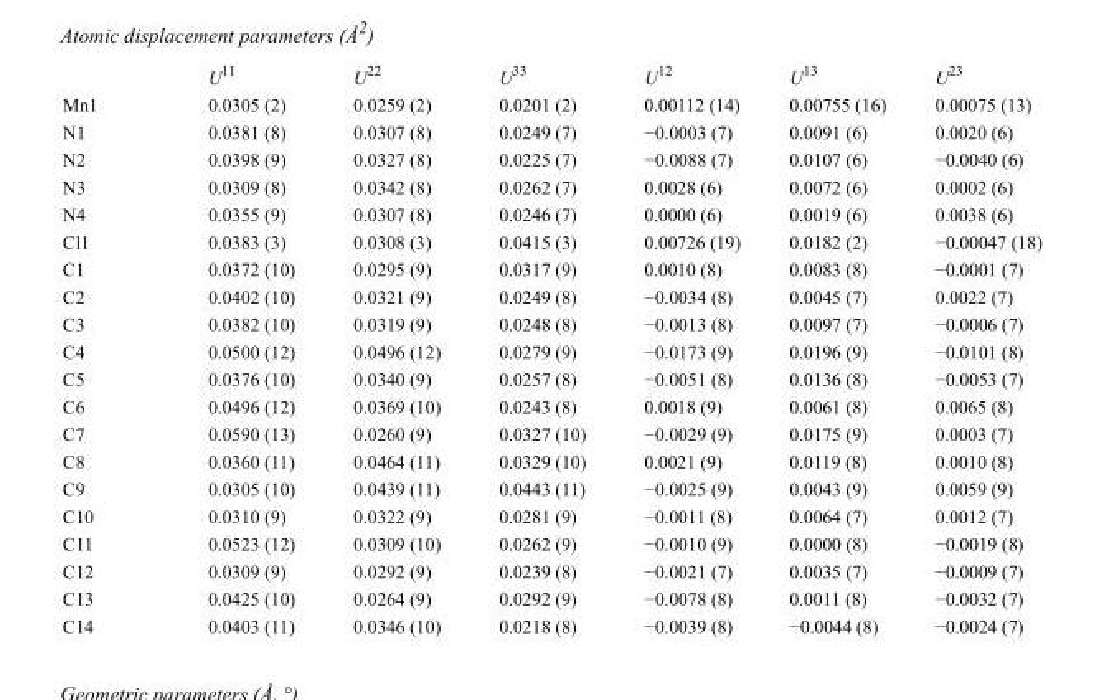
<table><thead><tr><td></td><td>U<sup>11</sup></td><td>U<sup>22</sup></td><td>U<sup>33</sup></td><td>U<sup>12</sup></td><td>U<sup>13</sup></td><td>U<sup>23</sup></td></tr></thead><tbody><tr><td>Mn1</td><td>0.0305 (2)</td><td>0.0259 (2)</td><td>0.0201 (2)</td><td>0.00112 (14)</td><td>0.00755 (16)</td><td>0.00075 (13)</td></tr><tr><td>N1</td><td>0.0381 (8)</td><td>0.0307 (8)</td><td>0.0249 (7)</td><td>−0.0003 (7)</td><td>0.0091 (6)</td><td>0.0020 (6)</td></tr><tr><td>N2</td><td>0.0398 (9)</td><td>0.0327 (8)</td><td>0.0225 (7)</td><td>−0.0088 (7)</td><td>0.0107 (6)</td><td>−0.0040 (6)</td></tr><tr><td>N3</td><td>0.0309 (8)</td><td>0.0342 (8)</td><td>0.0262 (7)</td><td>0.0028 (6)</td><td>0.0072 (6)</td><td>0.0002 (6)</td></tr><tr><td>N4</td><td>0.0355 (9)</td><td>0.0307 (8)</td><td>0.0246 (7)</td><td>0.0000 (6)</td><td>0.0019 (6)</td><td>0.0038 (6)</td></tr><tr><td>Cl1</td><td>0.0383 (3)</td><td>0.0308 (3)</td><td>0.0415 (3)</td><td>0.00726 (19)</td><td>0.0182 (2)</td><td>−0.00047 (18)</td></tr><tr><td>C1</td><td>0.0372 (10)</td><td>0.0295 (9)</td><td>0.0317 (9)</td><td>0.0010 (8)</td><td>0.0083 (8)</td><td>−0.0001 (7)</td></tr><tr><td>C2</td><td>0.0402 (10)</td><td>0.0321 (9)</td><td>0.0249 (8)</td><td>−0.0034 (8)</td><td>0.0045 (7)</td><td>0.0022 (7)</td></tr><tr><td>C3</td><td>0.0382 (10)</td><td>0.0319 (9)</td><td>0.0248 (8)</td><td>−0.0013 (8)</td><td>0.0097 (7)</td><td>−0.0006 (7)</td></tr><tr><td>C4</td><td>0.0500 (12)</td><td>0.0496 (12)</td><td>0.0279 (9)</td><td>−0.0173 (9)</td><td>0.0196 (9)</td><td>−0.0101 (8)</td></tr><tr><td>C5</td><td>0.0376 (10)</td><td>0.0340 (9)</td><td>0.0257 (8)</td><td>−0.0051 (8)</td><td>0.0136 (8)</td><td>−0.0053 (7)</td></tr><tr><td>C6</td><td>0.0496 (12)</td><td>0.0369 (10)</td><td>0.0243 (8)</td><td>0.0018 (9)</td><td>0.0061 (8)</td><td>0.0065 (8)</td></tr><tr><td>C7</td><td>0.0590 (13)</td><td>0.0260 (9)</td><td>0.0327 (10)</td><td>−0.0029 (9)</td><td>0.0175 (9)</td><td>0.0003 (7)</td></tr><tr><td>C8</td><td>0.0360 (11)</td><td>0.0464 (11)</td><td>0.0329 (10)</td><td>0.0021 (9)</td><td>0.0119 (8)</td><td>0.0010 (8)</td></tr><tr><td>C9</td><td>0.0305 (10)</td><td>0.0439 (11)</td><td>0.0443 (11)</td><td>−0.0025 (9)</td><td>0.0043 (9)</td><td>0.0059 (9)</td></tr><tr><td>C10</td><td>0.0310 (9)</td><td>0.0322 (9)</td><td>0.0281 (9)</td><td>−0.0011 (8)</td><td>0.0064 (7)</td><td>0.0012 (7)</td></tr><tr><td>C11</td><td>0.0523 (12)</td><td>0.0309 (10)</td><td>0.0262 (9)</td><td>−0.0010 (9)</td><td>0.0000 (8)</td><td>−0.0019 (8)</td></tr><tr><td>C12</td><td>0.0309 (9)</td><td>0.0292 (9)</td><td>0.0239 (8)</td><td>−0.0021 (7)</td><td>0.0035 (7)</td><td>−0.0009 (7)</td></tr><tr><td>C13</td><td>0.0425 (10)</td><td>0.0264 (9)</td><td>0.0292 (9)</td><td>−0.0078 (8)</td><td>0.0011 (8)</td><td>−0.0032 (7)</td></tr><tr><td>C14</td><td>0.0403 (11)</td><td>0.0346 (10)</td><td>0.0218 (8)</td><td>−0.0039 (8)</td><td>−0.0044 (8)</td><td>−0.0024 (7)</td></tr></tbody></table>